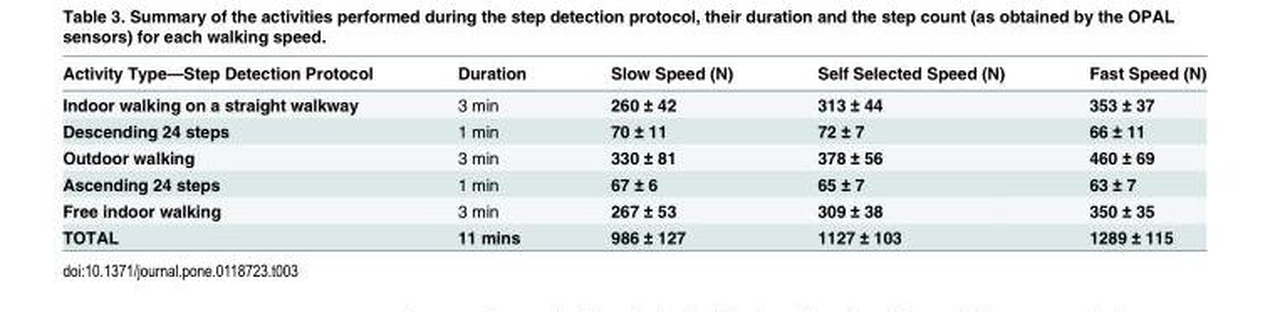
<table><thead><tr><td>Activity Type—Step Detection Protocol</td><td>Duration</td><td>Slow Speed (N)</td><td>Self Selected Speed (N)</td><td>Fast Speed (N)</td></tr></thead><tbody><tr><td>Indoor walking on a straight walkway</td><td>3 min</td><td>260 ± 42</td><td>313 ± 44</td><td>353 ± 37</td></tr><tr><td>Descending 24 steps</td><td>1 min</td><td>70 ± 11</td><td>72 ± 7</td><td>66 ± 11</td></tr><tr><td>Outdoor walking</td><td>3 min</td><td>330 ± 81</td><td>378 ± 56</td><td>460 ± 69</td></tr><tr><td>Ascending 24 steps</td><td>1 min</td><td>67 ± 6</td><td>65 ± 7</td><td>63 ± 7</td></tr><tr><td>Free indoor walking</td><td>3 min</td><td>267 ± 53</td><td>309 ± 38</td><td>350 ± 35</td></tr><tr><td>TOTAL</td><td>11 mins</td><td>986 ± 127</td><td>1127 ± 103</td><td>1289 ± 115</td></tr></tbody></table>